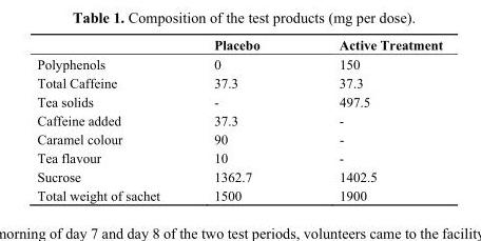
<table><thead><tr><td></td><td>Placebo</td><td>Active Treatment</td></tr></thead><tbody><tr><td>Polyphenols</td><td>0</td><td>150</td></tr><tr><td>Total Caffeine</td><td>37.3</td><td>37.3</td></tr><tr><td>Tea solids</td><td>-</td><td>497.5</td></tr><tr><td>Caffeine added</td><td>37.3</td><td>-</td></tr><tr><td>Caramel colour</td><td>90</td><td>-</td></tr><tr><td>Tea flavour</td><td>10</td><td>-</td></tr><tr><td>Sucrose</td><td>1362.7</td><td>1402.5</td></tr><tr><td>Total weight of sachet</td><td>1500</td><td>1900</td></tr></tbody></table>